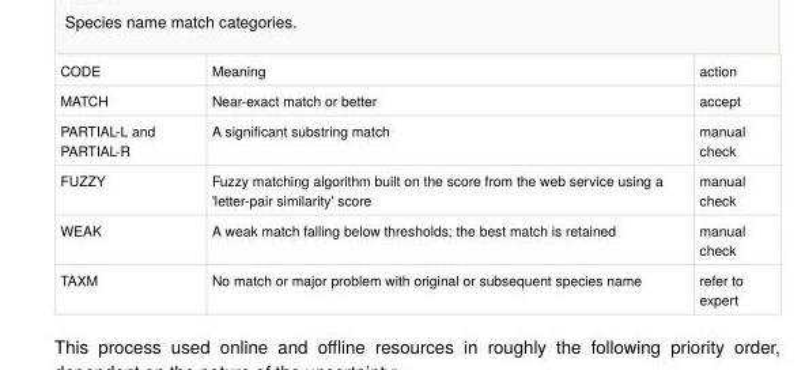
<table><tbody><tr><td>CODE</td><td>Meaning</td><td>action</td></tr><tr><td>MATCH</td><td>Near-exact match or better</td><td>accept</td></tr><tr><td>PARTIAL-L and PARTIAL-R</td><td>A significant substring match</td><td>manual check</td></tr><tr><td>FUZZY</td><td>Fuzzy matching algorithm built on the score from the web service using a &#x27;letter-pair similarity&#x27; score</td><td>manual check</td></tr><tr><td>WEAK</td><td>A weak match falling below thresholds; the best match is retained</td><td>manual check</td></tr><tr><td>TAXM</td><td>No match or major problem with original or subsequent species name</td><td>refer to expert</td></tr></tbody></table>